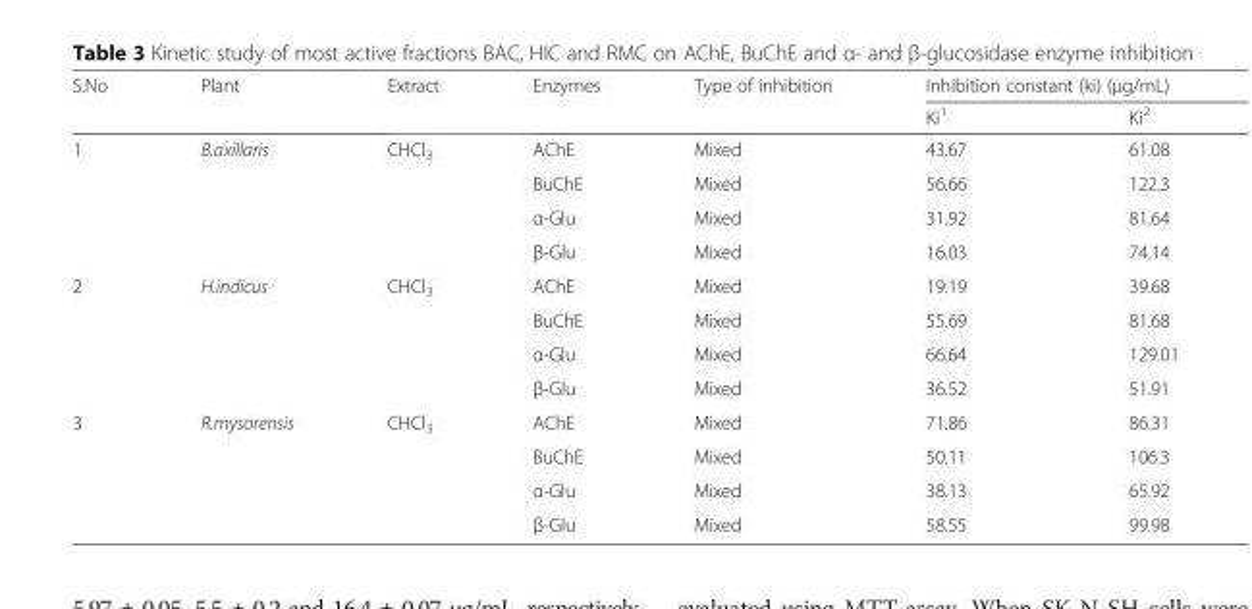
<table><thead><tr><td rowspan="2">S.No</td><td rowspan="2">Plant</td><td rowspan="2">Extract</td><td rowspan="2">Enzymes</td><td rowspan="2">Type of inhibition</td><td colspan="2">Inhibition constant (ki) (μg/mL)</td></tr><tr><td>Ki<sup>1</sup></td><td>Ki<sup>2</sup></td></tr></thead><tbody><tr><td rowspan="4">1</td><td rowspan="4">B.axillaris</td><td rowspan="4">CHCl<sub>3</sub></td><td>AChE</td><td>Mixed</td><td>43.67</td><td>61.08</td></tr><tr><td>BuChE</td><td>Mixed</td><td>56.66</td><td>122.3</td></tr><tr><td>α-Glu</td><td>Mixed</td><td>31.92</td><td>81.64</td></tr><tr><td>β-Glu</td><td>Mixed</td><td>16.03</td><td>74.14</td></tr><tr><td rowspan="4">2</td><td rowspan="4">H.indicus</td><td rowspan="4">CHCl<sub>3</sub></td><td>AChE</td><td>Mixed</td><td>19.19</td><td>39.68</td></tr><tr><td>BuChE</td><td>Mixed</td><td>55.69</td><td>81.68</td></tr><tr><td>α-Glu</td><td>Mixed</td><td>66.64</td><td>129.01</td></tr><tr><td>β-Glu</td><td>Mixed</td><td>36.52</td><td>51.91</td></tr><tr><td rowspan="4">3</td><td rowspan="4">R.mysorensis</td><td rowspan="4">CHCl<sub>3</sub></td><td>AChE</td><td>Mixed</td><td>71.86</td><td>86.31</td></tr><tr><td>BuChE</td><td>Mixed</td><td>50.11</td><td>106.3</td></tr><tr><td>α-Glu</td><td>Mixed</td><td>38.13</td><td>65.92</td></tr><tr><td>β-Glu</td><td>Mixed</td><td>58.55</td><td>99.98</td></tr></tbody></table>